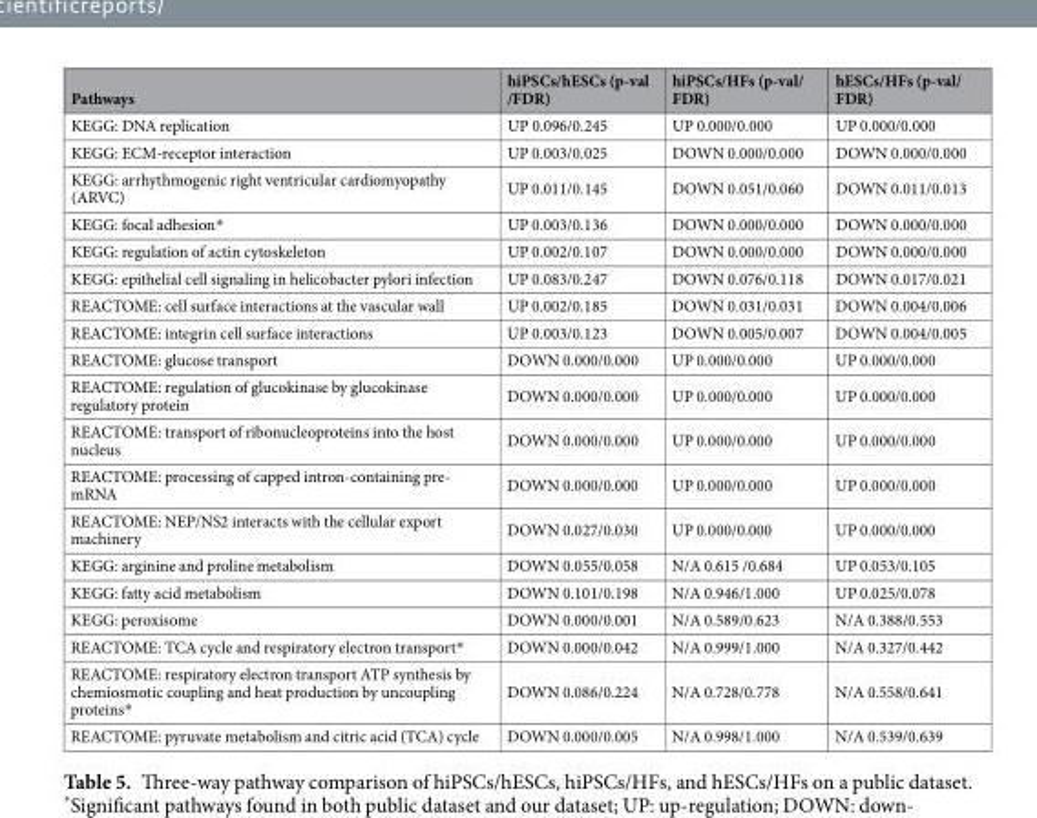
<table><thead><tr><td>Pathways</td><td>hiPSCs/hESCs (p-val /FDR)</td><td>hiPSCs/HFs (p-val/ FDR)</td><td>hESCs/HFs (p-val/ FDR)</td></tr></thead><tbody><tr><td>KEGG: DNA replication</td><td>UP 0.096/0.245</td><td>UP 0.000/0.000</td><td>UP 0.000/0.000</td></tr><tr><td>KEGG: ECM-receptor interaction</td><td>UP 0.003/0.025</td><td>DOWN 0.000/0.000</td><td>DOWN 0.000/0.000</td></tr><tr><td>KEGG: arrhythmogenic right ventricular cardiomyopathy (ARVC)</td><td>UP 0.011/0.145</td><td>DOWN 0.051/0.060</td><td>DOWN 0.011/0.013</td></tr><tr><td>KEGG: focal adhesion*</td><td>UP 0.003/0.136</td><td>DOWN 0.000/0.000</td><td>DOWN 0.000/0.000</td></tr><tr><td>KEGG: regulation of actin cytoskeleton</td><td>UP 0.002/0.107</td><td>DOWN 0.000/0.000</td><td>DOWN 0.000/0.000</td></tr><tr><td>KEGG: epithelial cell signaling in helicobacter pylori infection</td><td>UP 0.083/0.247</td><td>DOWN 0.076/0.118</td><td>DOWN 0.017/0.021</td></tr><tr><td>REACTOME: cell surface interactions at the vascular wall</td><td>UP 0.002/0.185</td><td>DOWN 0.031/0.031</td><td>DOWN 0.004/0.006</td></tr><tr><td>REACTOME: integrin cell surface interactions</td><td>UP 0.003/0.123</td><td>DOWN 0.005/0.007</td><td>DOWN 0.004/0.005</td></tr><tr><td>REACTOME: glucose transport</td><td>DOWN 0.000/0.000</td><td>UP 0.000/0.000</td><td>UP 0.000/0.000</td></tr><tr><td>REACTOME: regulation of glucokinase by glucokinase regulatory protein</td><td>DOWN 0.000/0.000</td><td>UP 0.000/0.000</td><td>UP 0.000/0.000</td></tr><tr><td>REACTOME: transport of ribonucleoproteins into the host nucleus</td><td>DOWN 0.000/0.000</td><td>UP 0.000/0.000</td><td>UP 0.000/0.000</td></tr><tr><td>REACTOME: processing of capped intron-containing pre- mRNA</td><td>DOWN 0.000/0.000</td><td>UP 0.000/0.000</td><td>UP 0.000/0.000</td></tr><tr><td>REACTOME: NEP/NS2 interacts with the cellular export machinery</td><td>DOWN 0.027/0.030</td><td>UP 0.000/0.000</td><td>UP 0.000/0.000</td></tr><tr><td>KEGG: arginine and proline metabolism</td><td>DOWN 0.055/0.058</td><td>N/A 0.615 /0.684</td><td>UP 0.053/0.105</td></tr><tr><td>KEGG: fatty acid metabolism</td><td>DOWN 0.101/0.198</td><td>N/A 0.946/1.000</td><td>UP 0.025/0.078</td></tr><tr><td>KEGG: peroxisome</td><td>DOWN 0.000/0.001</td><td>N/A 0.589/0.623</td><td>N/A 0.388/0.553</td></tr><tr><td>REACTOME: TCA cycle and respiratory electron transport*</td><td>DOWN 0.000/0.042</td><td>N/A 0.999/1.000</td><td>N/A 0.327/0.442</td></tr><tr><td>REACTOME: respiratory electron transport ATP synthesis by chemiosmotic coupling and heat production by uncoupling proteins*</td><td>DOWN 0.086/0.224</td><td>N/A 0.728/0.778</td><td>N/A 0.558/0.641</td></tr><tr><td>REACTOME: pyruvate metabolism and citric acid (TCA) cycle</td><td>DOWN 0.000/0.005</td><td>N/A 0.998/1.000</td><td>N/A 0.539/0.639</td></tr></tbody></table>